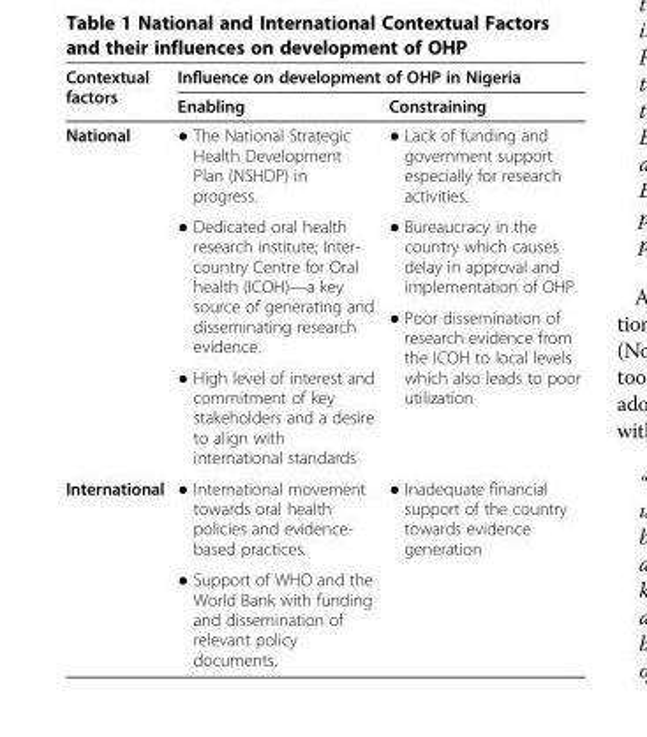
<table><thead><tr><td rowspan="2">Contextual factors</td><td colspan="2">Influence on development of OHP in Nigeria</td></tr><tr><td>Enabling</td><td>Constraining</td></tr></thead><tbody><tr><td rowspan="4">National</td><td>● The National Strategic Health Development Plan (NSHDP) in progress.</td><td>● Lack of funding and government support especially for research activities.</td></tr><tr><td rowspan="2">● Dedicated oral health research institute; Inter- country Centre for Oral health (ICOH)—a key source of generating and disseminating research evidence.</td><td>● Bureaucracy in the country which causes delay in approval and implementation of OHP.</td></tr><tr><td rowspan="2">● Poor dissemination of research evidence from the ICOH to local levels which also leads to poor utilization</td></tr><tr><td>● High level of interest and commitment of key stakeholders and a desire to align with international standards</td></tr><tr><td rowspan="2">International</td><td>● International movement towards oral health policies and evidence- based practices.</td><td rowspan="2">● Inadequate financial support of the country towards evidence generation</td></tr><tr><td>● Support of WHO and the World Bank with funding and dissemination of relevant policy documents.</td></tr></tbody></table>